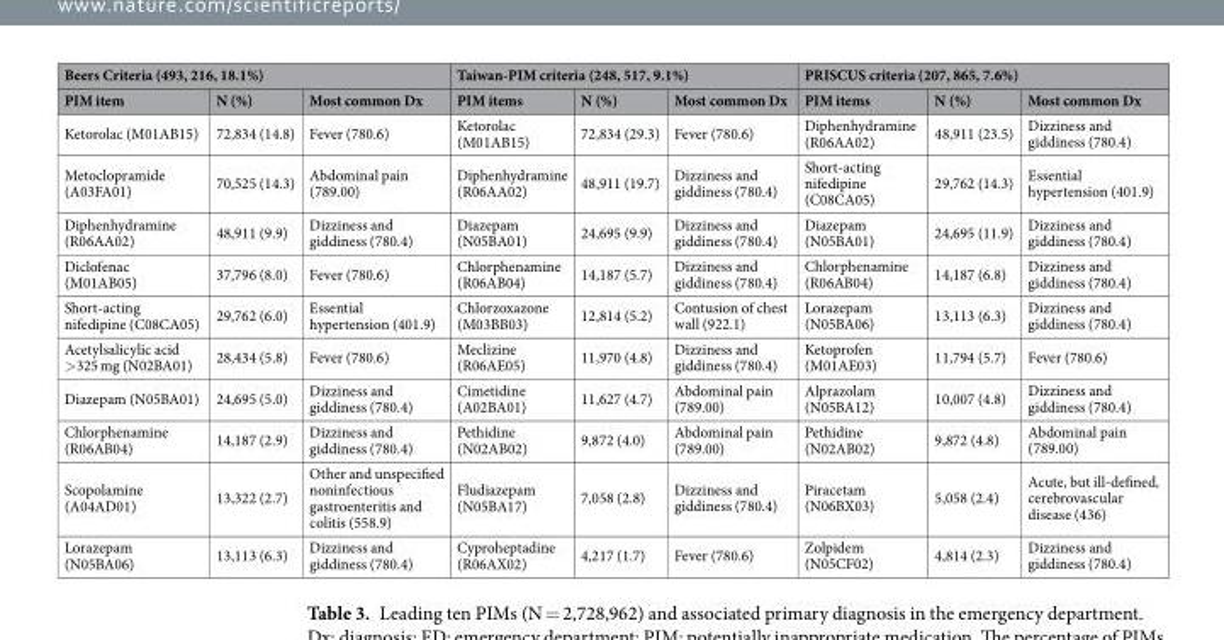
<table><thead><tr><td colspan="3">Beers Criteria (493, 216, 18.1%)</td><td colspan="3">Taiwan-PIM criteria (248, 517, 9.1%)</td><td colspan="3">PRISCUS criteria (207, 865, 7.6%)</td></tr><tr><td>PIM item</td><td>N (%)</td><td>Most common Dx</td><td>PIM items</td><td>N (%)</td><td>Most common Dx</td><td>PIM items</td><td>N (%)</td><td>Most common Dx</td></tr></thead><tbody><tr><td>Ketorolac (M01AB15)</td><td>72,834 (14.8)</td><td>Fever (780.6)</td><td>Ketorolac (M01AB15)</td><td>72,834 (29.3)</td><td>Fever (780.6)</td><td>Diphenhydramine (R06AA02)</td><td>48,911 (23.5)</td><td>Dizziness and giddiness (780.4)</td></tr><tr><td>Metoclopramide (A03FA01)</td><td>70,525 (14.3)</td><td>Abdominal pain (789.00)</td><td>Diphenhydramine (R06AA02)</td><td>48,911 (19.7)</td><td>Dizziness and giddiness (780.4)</td><td>Short-acting nifedipine (C08CA05)</td><td>29,762 (14.3)</td><td>Essential hypertension (401.9)</td></tr><tr><td>Diphenhydramine (R06AA02)</td><td>48,911 (9.9)</td><td>Dizziness and giddiness (780.4)</td><td>Diazepam (N05BA01)</td><td>24,695 (9.9)</td><td>Dizziness and giddiness (780.4)</td><td>Diazepam (N05BA01)</td><td>24,695 (11.9)</td><td>Dizziness and giddiness (780.4)</td></tr><tr><td>Diclofenac (M01AB05)</td><td>37,796 (8.0)</td><td>Fever (780.6)</td><td>Chlorphenamine (R06AB04)</td><td>14,187 (5.7)</td><td>Dizziness and giddiness (780.4)</td><td>Chlorphenamine (R06AB04)</td><td>14,187 (6.8)</td><td>Dizziness and giddiness (780.4)</td></tr><tr><td>Short-acting nifedipine (C08CA05)</td><td>29,762 (6.0)</td><td>Essential hypertension (401.9)</td><td>Chlorzoxazone (M03BB03)</td><td>12,814 (5.2)</td><td>Contusion of chest wall (922.1)</td><td>Lorazepam (N05BA06)</td><td>13,113 (6.3)</td><td>Dizziness and giddiness (780.4)</td></tr><tr><td>Acetylsalicylic acid &gt;325 mg (N02BA01)</td><td>28,434 (5.8)</td><td>Fever (780.6)</td><td>Meclizine (R06AE05)</td><td>11,970 (4.8)</td><td>Dizziness and giddiness (780.4)</td><td>Ketoprofen (M01AE03)</td><td>11,794 (5.7)</td><td>Fever (780.6)</td></tr><tr><td>Diazepam (N05BA01)</td><td>24,695 (5.0)</td><td>Dizziness and giddiness (780.4)</td><td>Cimetidine (A02BA01)</td><td>11,627 (4.7)</td><td>Abdominal pain (789.00)</td><td>Alprazolam (N05BA12)</td><td>10,007 (4.8)</td><td>Dizziness and giddiness (780.4)</td></tr><tr><td>Chlorphenamine (R06AB04)</td><td>14,187 (2.9)</td><td>Dizziness and giddiness (780.4)</td><td>Pethidine (N02AB02)</td><td>9,872 (4.0)</td><td>Abdominal pain (789.00)</td><td>Pethidine (N02AB02)</td><td>9,872 (4.8)</td><td>Abdominal pain (789.00)</td></tr><tr><td>Scopolamine (A04AD01)</td><td>13,322 (2.7)</td><td>Other and unspecified noninfectious gastroenteritis and colitis (558.9)</td><td>Fludiazepam (N05BA17)</td><td>7,058 (2.8)</td><td>Dizziness and giddiness (780.4)</td><td>Piracetam (N06BX03)</td><td>5,058 (2.4)</td><td>Acute, but ill-defined, cerebrovascular disease (436)</td></tr><tr><td>Lorazepam (N05BA06)</td><td>13,113 (6.3)</td><td>Dizziness and giddiness (780.4)</td><td>Cyproheptadine (R06AX02)</td><td>4,217 (1.7)</td><td>Fever (780.6)</td><td>Zolpidem (N05CF02)</td><td>4,814 (2.3)</td><td>Dizziness and giddiness (780.4)</td></tr></tbody></table>